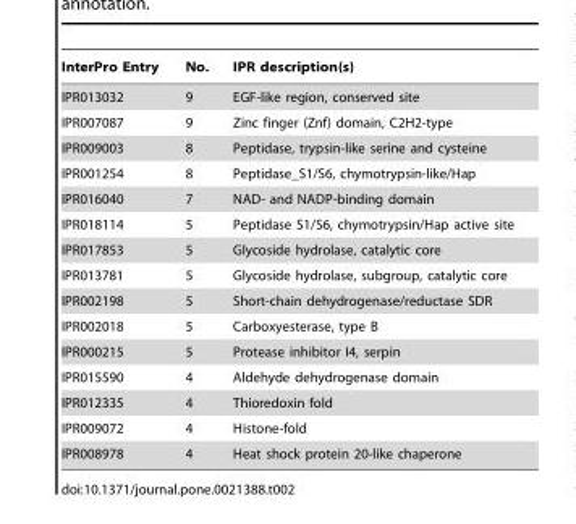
<table><thead><tr><td>InterPro Entry</td><td>No.</td><td>IPR description(s)</td></tr></thead><tbody><tr><td>IPR013032</td><td>9</td><td>EGF-like region, conserved site</td></tr><tr><td>IPR007087</td><td>9</td><td>Zinc finger (Znf) domain, C2H2-type</td></tr><tr><td>IPR009003</td><td>8</td><td>Peptidase, trypsin-like serine and cysteine</td></tr><tr><td>IPR001254</td><td>8</td><td>Peptidase_S1/S6, chymotrypsin-like/Hap</td></tr><tr><td>IPR016040</td><td>7</td><td>NAD- and NADP-binding domain</td></tr><tr><td>IPR018114</td><td>5</td><td>Peptidase S1/S6, chymotrypsin/Hap active site</td></tr><tr><td>IPR017853</td><td>5</td><td>Glycoside hydrolase, catalytic core</td></tr><tr><td>IPR013781</td><td>5</td><td>Glycoside hydrolase, subgroup, catalytic core</td></tr><tr><td>IPR002198</td><td>5</td><td>Short-chain dehydrogenase/reductase SDR</td></tr><tr><td>IPR002018</td><td>5</td><td>Carboxyesterase, type B</td></tr><tr><td>IPR000215</td><td>5</td><td>Protease inhibitor I4, serpin</td></tr><tr><td>IPR015590</td><td>4</td><td>Aldehyde dehydrogenase domain</td></tr><tr><td>IPR012335</td><td>4</td><td>Thioredoxin fold</td></tr><tr><td>IPR009072</td><td>4</td><td>Histone-fold</td></tr><tr><td>IPR008978</td><td>4</td><td>Heat shock protein 20-like chaperone</td></tr></tbody></table>